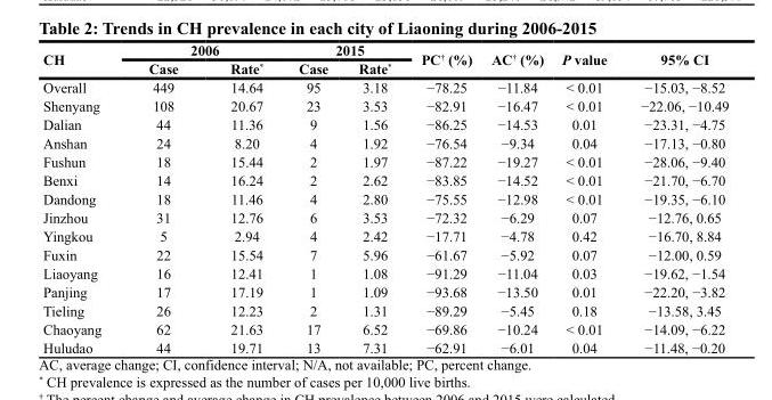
<table><thead><tr><td rowspan="2">CH</td><td colspan="2">2006</td><td colspan="2">2015</td><td rowspan="2">PC<sup>†</sup> (%)</td><td rowspan="2">AC<sup>†</sup> (%)</td><td rowspan="2">P value</td><td rowspan="2">95% CI</td></tr><tr><td>Case</td><td>Rate*</td><td>Case</td><td>Rate*</td></tr></thead><tbody><tr><td>Overall</td><td>449</td><td>14.64</td><td>95</td><td>3.18</td><td>−78.25</td><td>−11.84</td><td>&lt; 0.01</td><td>−15.03, −8.52</td></tr><tr><td>Shenyang</td><td>108</td><td>20.67</td><td>23</td><td>3.53</td><td>−82.91</td><td>−16.47</td><td>&lt; 0.01</td><td>−22.06, −10.49</td></tr><tr><td>Dalian</td><td>44</td><td>11.36</td><td>9</td><td>1.56</td><td>−86.25</td><td>−14.53</td><td>0.01</td><td>−23.31, −4.75</td></tr><tr><td>Anshan</td><td>24</td><td>8.20</td><td>4</td><td>1.92</td><td>−76.54</td><td>−9.34</td><td>0.04</td><td>−17.13, −0.80</td></tr><tr><td>Fushun</td><td>18</td><td>15.44</td><td>2</td><td>1.97</td><td>−87.22</td><td>−19.27</td><td>&lt; 0.01</td><td>−28.06, −9.40</td></tr><tr><td>Benxi</td><td>14</td><td>16.24</td><td>2</td><td>2.62</td><td>−83.85</td><td>−14.52</td><td>&lt; 0.01</td><td>−21.70, −6.70</td></tr><tr><td>Dandong</td><td>18</td><td>11.46</td><td>4</td><td>2.80</td><td>−75.55</td><td>−12.98</td><td>&lt; 0.01</td><td>−19.35, −6.10</td></tr><tr><td>Jinzhou</td><td>31</td><td>12.76</td><td>6</td><td>3.53</td><td>−72.32</td><td>−6.29</td><td>0.07</td><td>−12.76, 0.65</td></tr><tr><td>Yingkou</td><td>5</td><td>2.94</td><td>4</td><td>2.42</td><td>−17.71</td><td>−4.78</td><td>0.42</td><td>−16.70, 8.84</td></tr><tr><td>Fuxin</td><td>22</td><td>15.54</td><td>7</td><td>5.96</td><td>−61.67</td><td>−5.92</td><td>0.07</td><td>−12.00, 0.59</td></tr><tr><td>Liaoyang</td><td>16</td><td>12.41</td><td>1</td><td>1.08</td><td>−91.29</td><td>−11.04</td><td>0.03</td><td>−19.62, −1.54</td></tr><tr><td>Panjing</td><td>17</td><td>17.19</td><td>1</td><td>1.09</td><td>−93.68</td><td>−13.50</td><td>0.01</td><td>−22.20, −3.82</td></tr><tr><td>Tieling</td><td>26</td><td>12.23</td><td>2</td><td>1.31</td><td>−89.29</td><td>−5.45</td><td>0.18</td><td>−13.58, 3.45</td></tr><tr><td>Chaoyang</td><td>62</td><td>21.63</td><td>17</td><td>6.52</td><td>−69.86</td><td>−10.24</td><td>&lt; 0.01</td><td>−14.09, −6.22</td></tr><tr><td>Huludao</td><td>44</td><td>19.71</td><td>13</td><td>7.31</td><td>−62.91</td><td>−6.01</td><td>0.04</td><td>−11.48, −0.20</td></tr></tbody></table>